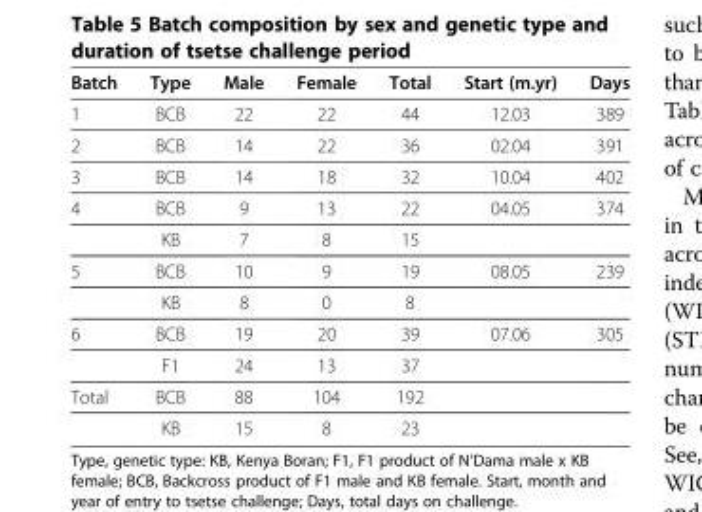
<table><thead><tr><td>Batch</td><td>Type</td><td>Male</td><td>Female</td><td>Total</td><td>Start (m.yr)</td><td>Days</td></tr></thead><tbody><tr><td>1</td><td>BCB</td><td>22</td><td>22</td><td>44</td><td>12.03</td><td>389</td></tr><tr><td>2</td><td>BCB</td><td>14</td><td>22</td><td>36</td><td>02.04</td><td>391</td></tr><tr><td>3</td><td>BCB</td><td>14</td><td>18</td><td>32</td><td>10.04</td><td>402</td></tr><tr><td rowspan="2">4</td><td>BCB</td><td>9</td><td>13</td><td>22</td><td>04.05</td><td>374</td></tr><tr><td>KB</td><td>7</td><td>8</td><td>15</td><td></td><td></td></tr><tr><td rowspan="2">5</td><td>BCB</td><td>10</td><td>9</td><td>19</td><td>08.05</td><td>239</td></tr><tr><td>KB</td><td>8</td><td>0</td><td>8</td><td></td><td></td></tr><tr><td rowspan="2">6</td><td>BCB</td><td>19</td><td>20</td><td>39</td><td>07.06</td><td>305</td></tr><tr><td>F1</td><td>24</td><td>13</td><td>37</td><td></td><td></td></tr><tr><td rowspan="2">Total</td><td>BCB</td><td>88</td><td>104</td><td>192</td><td></td><td></td></tr><tr><td>KB</td><td>15</td><td>8</td><td>23</td><td></td><td></td></tr></tbody></table>